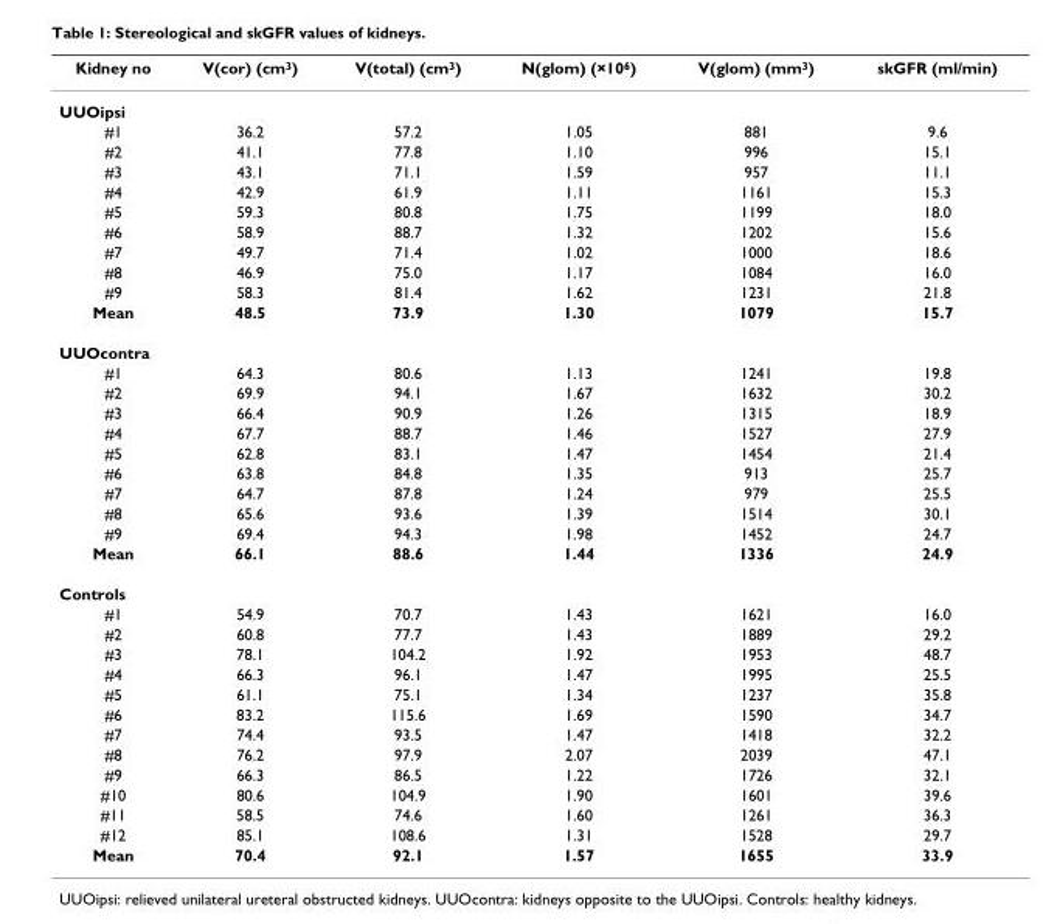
<table><thead><tr><td>Kidney no</td><td>V(cor) (cm<sup>3</sup>)</td><td>V(total) (cm<sup>3</sup>)</td><td>N(glom) (×10<sup>6</sup>)</td><td>V(glom) (mm<sup>3</sup>)</td><td>skGFR (ml/min)</td></tr></thead><tbody><tr><td colspan="6">UUOipsi</td></tr><tr><td>#1</td><td>36.2</td><td>57.2</td><td>1.05</td><td>881</td><td>9.6</td></tr><tr><td>#2</td><td>41.1</td><td>77.8</td><td>1.10</td><td>996</td><td>15.1</td></tr><tr><td>#3</td><td>43.1</td><td>71.1</td><td>1.59</td><td>957</td><td>11.1</td></tr><tr><td>#4</td><td>42.9</td><td>61.9</td><td>1.11</td><td>1161</td><td>15.3</td></tr><tr><td>#5</td><td>59.3</td><td>80.8</td><td>1.75</td><td>1199</td><td>18.0</td></tr><tr><td>#6</td><td>58.9</td><td>88.7</td><td>1.32</td><td>1202</td><td>15.6</td></tr><tr><td>#7</td><td>49.7</td><td>71.4</td><td>1.02</td><td>1000</td><td>18.6</td></tr><tr><td>#8</td><td>46.9</td><td>75.0</td><td>1.17</td><td>1084</td><td>16.0</td></tr><tr><td>#9</td><td>58.3</td><td>81.4</td><td>1.62</td><td>1231</td><td>21.8</td></tr><tr><td>Mean</td><td>48.5</td><td>73.9</td><td>1.30</td><td>1079</td><td>15.7</td></tr><tr><td colspan="6">UUOcontra</td></tr><tr><td>#1</td><td>64.3</td><td>80.6</td><td>1.13</td><td>1241</td><td>19.8</td></tr><tr><td>#2</td><td>69.9</td><td>94.1</td><td>1.67</td><td>1632</td><td>30.2</td></tr><tr><td>#3</td><td>66.4</td><td>90.9</td><td>1.26</td><td>1315</td><td>18.9</td></tr><tr><td>#4</td><td>67.7</td><td>88.7</td><td>1.46</td><td>1527</td><td>27.9</td></tr><tr><td>#5</td><td>62.8</td><td>83.1</td><td>1.47</td><td>1454</td><td>21.4</td></tr><tr><td>#6</td><td>63.8</td><td>84.8</td><td>1.35</td><td>913</td><td>25.7</td></tr><tr><td>#7</td><td>64.7</td><td>87.8</td><td>1.24</td><td>979</td><td>25.5</td></tr><tr><td>#8</td><td>65.6</td><td>93.6</td><td>1.39</td><td>1514</td><td>30.1</td></tr><tr><td>#9</td><td>69.4</td><td>94.3</td><td>1.98</td><td>1452</td><td>24.7</td></tr><tr><td>Mean</td><td>66.1</td><td>88.6</td><td>1.44</td><td>1336</td><td>24.9</td></tr><tr><td colspan="6">Controls</td></tr><tr><td>#1</td><td>54.9</td><td>70.7</td><td>1.43</td><td>1621</td><td>16.0</td></tr><tr><td>#2</td><td>60.8</td><td>77.7</td><td>1.43</td><td>1889</td><td>29.2</td></tr><tr><td>#3</td><td>78.1</td><td>104.2</td><td>1.92</td><td>1953</td><td>48.7</td></tr><tr><td>#4</td><td>66.3</td><td>96.1</td><td>1.47</td><td>1995</td><td>25.5</td></tr><tr><td>#5</td><td>61.1</td><td>75.1</td><td>1.34</td><td>1237</td><td>35.8</td></tr><tr><td>#6</td><td>83.2</td><td>115.6</td><td>1.69</td><td>1590</td><td>34.7</td></tr><tr><td>#7</td><td>74.4</td><td>93.5</td><td>1.47</td><td>1418</td><td>32.2</td></tr><tr><td>#8</td><td>76.2</td><td>97.9</td><td>2.07</td><td>2039</td><td>47.1</td></tr><tr><td>#9</td><td>66.3</td><td>86.5</td><td>1.22</td><td>1726</td><td>32.1</td></tr><tr><td>#10</td><td>80.6</td><td>104.9</td><td>1.90</td><td>1601</td><td>39.6</td></tr><tr><td>#11</td><td>58.5</td><td>74.6</td><td>1.60</td><td>1261</td><td>36.3</td></tr><tr><td>#12</td><td>85.1</td><td>108.6</td><td>1.31</td><td>1528</td><td>29.7</td></tr><tr><td>Mean</td><td>70.4</td><td>92.1</td><td>1.57</td><td>1655</td><td>33.9</td></tr></tbody></table>